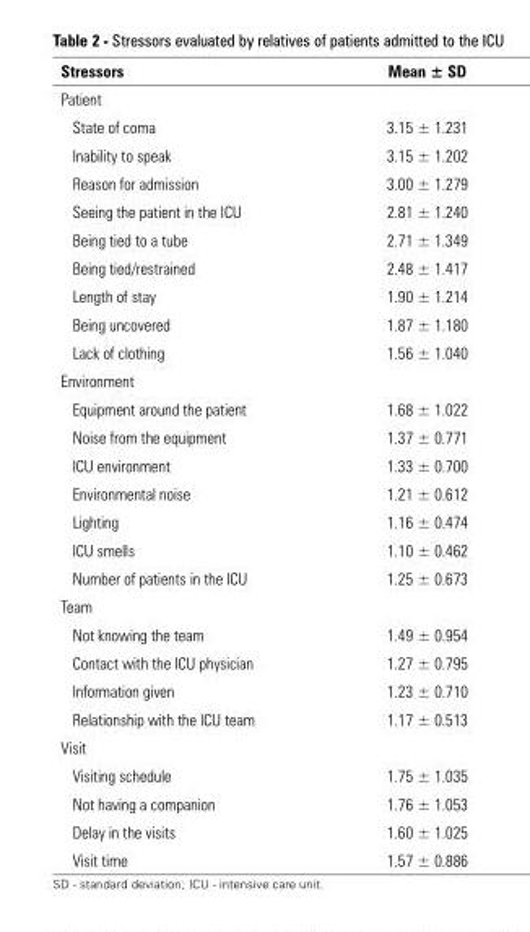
<table><thead><tr><td>Stressors</td><td>Mean ± SD</td></tr></thead><tbody><tr><td colspan="2">Patient</td></tr><tr><td>State of coma</td><td>3.15 ± 1.231</td></tr><tr><td>Inability to speak</td><td>3.15 ± 1.202</td></tr><tr><td>Reason for admission</td><td>3.00 ± 1.279</td></tr><tr><td>Seeing the patient in the ICU</td><td>2.81 ± 1.240</td></tr><tr><td>Being tied to a tube</td><td>2.71 ± 1.349</td></tr><tr><td>Being tied/restrained</td><td>2.48 ± 1.417</td></tr><tr><td>Length of stay</td><td>1.90 ± 1.214</td></tr><tr><td>Being uncovered</td><td>1.87 ± 1.180</td></tr><tr><td>Lack of clothing</td><td>1.56 ± 1.040</td></tr><tr><td colspan="2">Environment</td></tr><tr><td>Equipment around the patient</td><td>1.68 ± 1.022</td></tr><tr><td>Noise from the equipment</td><td>1.37 ± 0.771</td></tr><tr><td>ICU environment</td><td>1.33 ± 0.700</td></tr><tr><td>Environmental noise</td><td>1.21 ± 0.612</td></tr><tr><td>Lighting</td><td>1.16 ± 0.474</td></tr><tr><td>ICU smells</td><td>1.10 ± 0.462</td></tr><tr><td>Number of patients in the ICU</td><td>1.25 ± 0.673</td></tr><tr><td colspan="2">Team</td></tr><tr><td>Not knowing the team</td><td>1.49 ± 0.954</td></tr><tr><td>Contact with the ICU physician</td><td>1.27 ± 0.795</td></tr><tr><td>Information given</td><td>1.23 ± 0.710</td></tr><tr><td>Relationship with the ICU team</td><td>1.17 ± 0.513</td></tr><tr><td colspan="2">Visit</td></tr><tr><td>Visiting schedule</td><td>1.75 ± 1.035</td></tr><tr><td>Not having a companion</td><td>1.76 ± 1.053</td></tr><tr><td>Delay in the visits</td><td>1.60 ± 1.025</td></tr><tr><td>Visit time</td><td>1.57 ± 0.886</td></tr></tbody></table>